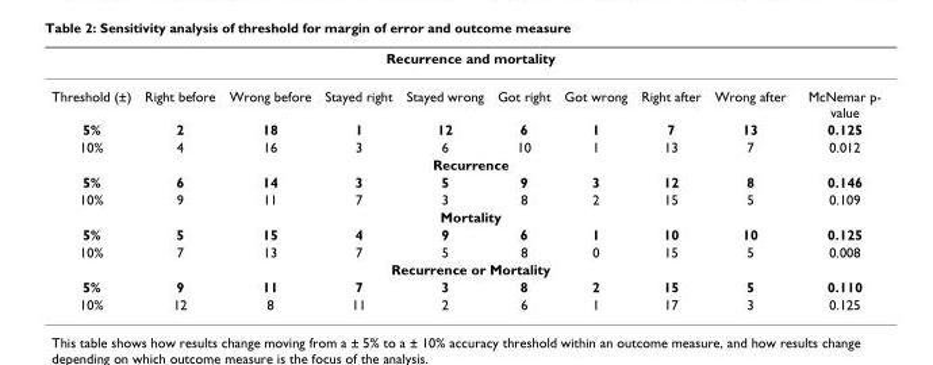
<table><thead><tr><td colspan="10">Recurrence and mortality</td></tr><tr><td>Threshold (±)</td><td>Right before</td><td>Wrong before</td><td>Stayed right</td><td>Stayed wrong</td><td>Got right</td><td>Got wrong</td><td>Right after</td><td>Wrong after</td><td>McNemar p- value</td></tr></thead><tbody><tr><td>5%</td><td>2</td><td>18</td><td>1</td><td>12</td><td>6</td><td>1</td><td>7</td><td>13</td><td>0.125</td></tr><tr><td>10%</td><td>4</td><td>16</td><td>3</td><td>6</td><td>10</td><td>1</td><td>13</td><td>7</td><td>0.012</td></tr><tr><td colspan="10">Recurrence</td></tr><tr><td>5%</td><td>6</td><td>14</td><td>3</td><td>5</td><td>9</td><td>3</td><td>12</td><td>8</td><td>0.146</td></tr><tr><td>10%</td><td>9</td><td>11</td><td>7</td><td>3</td><td>8</td><td>2</td><td>15</td><td>5</td><td>0.109</td></tr><tr><td colspan="10">Mortality</td></tr><tr><td>5%</td><td>5</td><td>15</td><td>4</td><td>9</td><td>6</td><td>1</td><td>10</td><td>10</td><td>0.125</td></tr><tr><td>10%</td><td>7</td><td>13</td><td>7</td><td>5</td><td>8</td><td>0</td><td>15</td><td>5</td><td>0.008</td></tr><tr><td colspan="10">Recurrence or Mortality</td></tr><tr><td>5%</td><td>9</td><td>11</td><td>7</td><td>3</td><td>8</td><td>2</td><td>15</td><td>5</td><td>0.110</td></tr><tr><td>10%</td><td>12</td><td>8</td><td>11</td><td>2</td><td>6</td><td>1</td><td>17</td><td>3</td><td>0.125</td></tr></tbody></table>